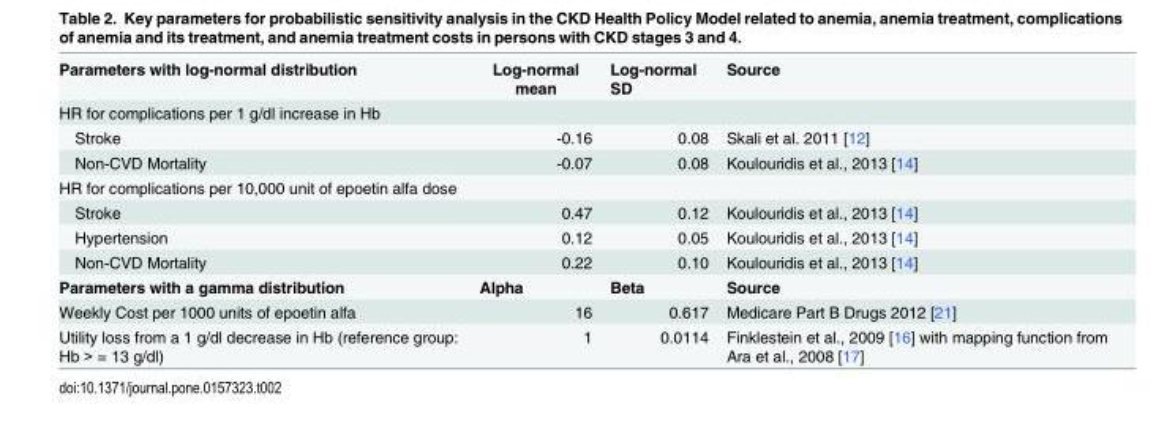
<table><tbody><tr><td>Parameters with log-normal distribution</td><td>Log-normal mean</td><td>Log-normal SD</td><td>Source</td></tr><tr><td colspan="4">HR for complications per 1 g/dl increase in Hb</td></tr><tr><td>Stroke</td><td>-0.16</td><td>0.08</td><td>Skali et al. 2011 [12]</td></tr><tr><td>Non-CVD Mortality</td><td>-0.07</td><td>0.08</td><td>Koulouridis et al., 2013 [14]</td></tr><tr><td colspan="4">HR for complications per 10,000 unit of epoetin alfa dose</td></tr><tr><td>Stroke</td><td>0.47</td><td>0.12</td><td>Koulouridis et al., 2013 [14]</td></tr><tr><td>Hypertension</td><td>0.12</td><td>0.05</td><td>Koulouridis et al., 2013 [14]</td></tr><tr><td>Non-CVD Mortality</td><td>0.22</td><td>0.10</td><td>Koulouridis et al., 2013 [14]</td></tr><tr><td>Parameters with a gamma distribution</td><td>Alpha</td><td>Beta</td><td>Source</td></tr><tr><td>Weekly Cost per 1000 units of epoetin alfa</td><td>16</td><td>0.617</td><td>Medicare Part B Drugs 2012 [21]</td></tr><tr><td>Utility loss from a 1 g/dl decrease in Hb (reference group: Hb &gt; = 13 g/dl)</td><td>1</td><td>0.0114</td><td>Finklestein et al., 2009 [16] with mapping function from Ara et al., 2008 [17]</td></tr></tbody></table>